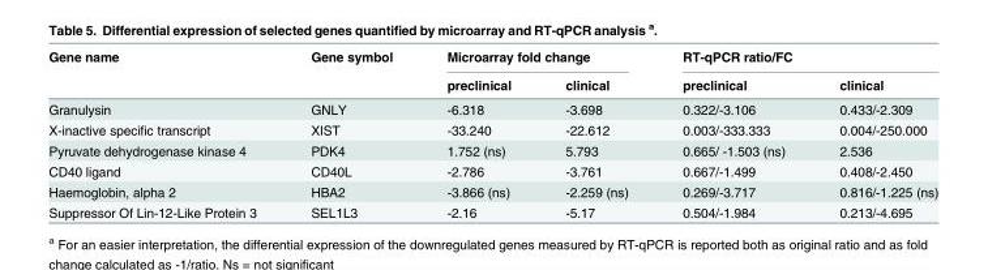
<table><thead><tr><td rowspan="2">Gene name</td><td rowspan="2">Gene symbol</td><td colspan="2">Microarray fold change</td><td colspan="2">RT-qPCR ratio/FC</td></tr><tr><td>preclinical</td><td>clinical</td><td>preclinical</td><td>clinical</td></tr></thead><tbody><tr><td>Granulysin</td><td>GNLY</td><td>-6.318</td><td>-3.698</td><td>0.322/-3.106</td><td>0.433/-2.309</td></tr><tr><td>X-inactive specific transcript</td><td>XIST</td><td>-33.240</td><td>-22.612</td><td>0.003/-333.333</td><td>0.004/-250.000</td></tr><tr><td>Pyruvate dehydrogenase kinase 4</td><td>PDK4</td><td>1.752 (ns)</td><td>5.793</td><td>0.665/ -1.503 (ns)</td><td>2.536</td></tr><tr><td>CD40 ligand</td><td>CD40L</td><td>-2.786</td><td>-3.761</td><td>0.667/-1.499</td><td>0.408/-2.450</td></tr><tr><td>Haemoglobin, alpha 2</td><td>HBA2</td><td>-3.866 (ns)</td><td>-2.259 (ns)</td><td>0.269/-3.717</td><td>0.816/-1.225 (ns)</td></tr><tr><td>Suppressor Of Lin-12-Like Protein 3</td><td>SEL1L3</td><td>-2.16</td><td>-5.17</td><td>0.504/-1.984</td><td>0.213/-4.695</td></tr></tbody></table>